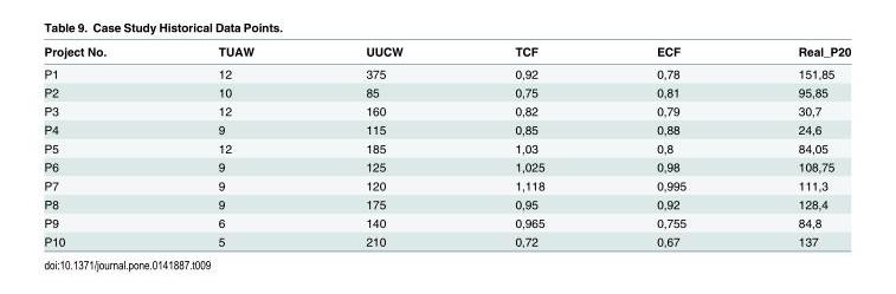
<table><thead><tr><td>Project No.</td><td>TUAW</td><td>UUCW</td><td>TCF</td><td>ECF</td><td>Real_P20</td></tr></thead><tbody><tr><td>P1</td><td>12</td><td>375</td><td>0,92</td><td>0,78</td><td>151,85</td></tr><tr><td>P2</td><td>10</td><td>85</td><td>0,75</td><td>0,81</td><td>95,85</td></tr><tr><td>P3</td><td>12</td><td>160</td><td>0,82</td><td>0,79</td><td>30,7</td></tr><tr><td>P4</td><td>9</td><td>115</td><td>0,85</td><td>0,88</td><td>24,6</td></tr><tr><td>P5</td><td>12</td><td>185</td><td>1,03</td><td>0,8</td><td>84,05</td></tr><tr><td>P6</td><td>9</td><td>125</td><td>1,025</td><td>0,98</td><td>108,75</td></tr><tr><td>P7</td><td>9</td><td>120</td><td>1,118</td><td>0,995</td><td>111,3</td></tr><tr><td>P8</td><td>9</td><td>175</td><td>0,95</td><td>0,92</td><td>128,4</td></tr><tr><td>P9</td><td>6</td><td>140</td><td>0,965</td><td>0,755</td><td>84,8</td></tr><tr><td>P10</td><td>5</td><td>210</td><td>0,72</td><td>0,67</td><td>137</td></tr></tbody></table>